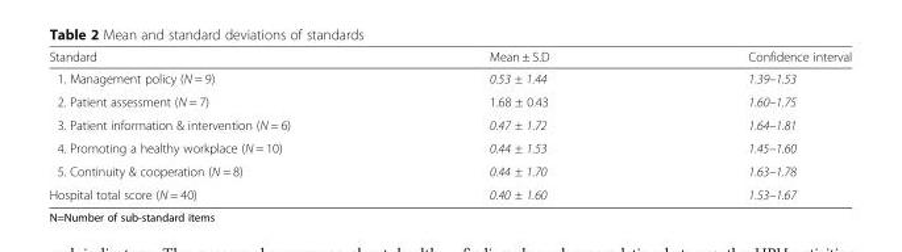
<table><thead><tr><td>Standard</td><td>Mean ± S.D</td><td>Confidence interval</td></tr></thead><tbody><tr><td>1. Management policy (N = 9)</td><td>0.53 ± 1.44</td><td>1.39–1.53</td></tr><tr><td>2. Patient assessment (N = 7)</td><td>1.68 ± 0.43</td><td>1.60–1.75</td></tr><tr><td>3. Patient information &amp; intervention (N = 6)</td><td>0.47 ± 1.72</td><td>1.64–1.81</td></tr><tr><td>4. Promoting a healthy workplace (N = 10)</td><td>0.44 ± 1.53</td><td>1.45–1.60</td></tr><tr><td>5. Continuity &amp; cooperation (N = 8)</td><td>0.44 ± 1.70</td><td>1.63–1.78</td></tr><tr><td>Hospital total score (N = 40)</td><td>0.40 ± 1.60</td><td>1.53–1.67</td></tr></tbody></table>